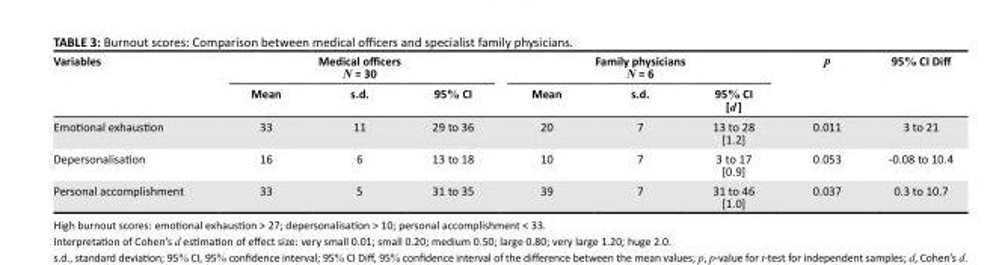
<table><thead><tr><td rowspan="2">Variables</td><td colspan="3">Medical officers N = 30</td><td colspan="3">Family physicians N = 6</td><td rowspan="2">p</td><td rowspan="2">95% CI Diff</td></tr><tr><td>Mean</td><td>s.d.</td><td>95% CI</td><td>Mean</td><td>s.d.</td><td>95% CI [d ]</td></tr></thead><tbody><tr><td>Emotional exhaustion</td><td>33</td><td>11</td><td>29 to 36</td><td>20</td><td>7</td><td>13 to 28 [1.2]</td><td>0.011</td><td>3 to 21</td></tr><tr><td>Depersonalisation</td><td>16</td><td>6</td><td>13 to 18</td><td>10</td><td>7</td><td>3 to 17 [0.9]</td><td>0.053</td><td>-0.08 to 10.4</td></tr><tr><td>Personal accomplishment</td><td>33</td><td>5</td><td>31 to 35</td><td>39</td><td>7</td><td>31 to 46 [1.0]</td><td>0.037</td><td>0.3 to 10.7</td></tr></tbody></table>